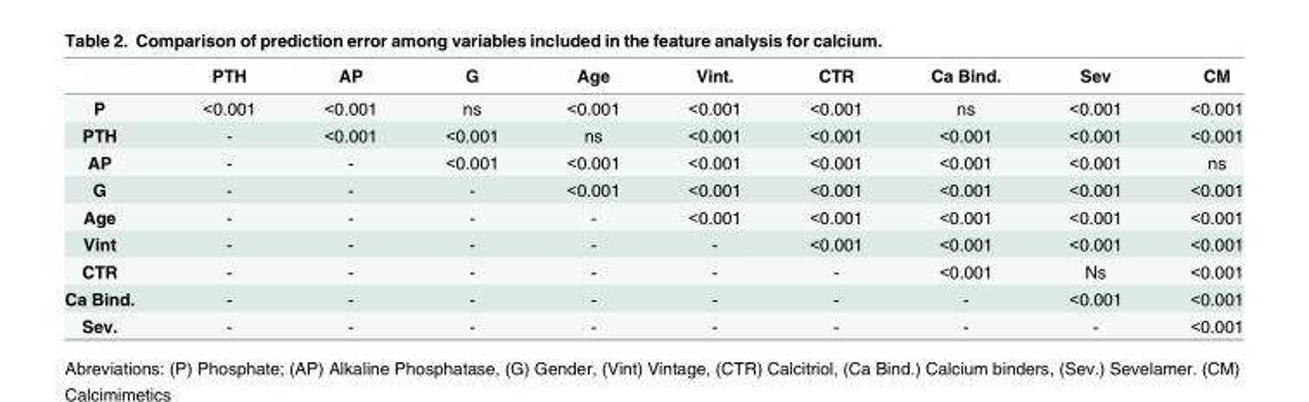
<table><thead><tr><td></td><td>PTH</td><td>AP</td><td>G</td><td>Age</td><td>Vint.</td><td>CTR</td><td>Ca Bind.</td><td>Sev</td><td>CM</td></tr></thead><tbody><tr><td>P</td><td>&lt;0.001</td><td>&lt;0.001</td><td>ns</td><td>&lt;0.001</td><td>&lt;0.001</td><td>&lt;0.001</td><td>ns</td><td>&lt;0.001</td><td>&lt;0.001</td></tr><tr><td>PTH</td><td>-</td><td>&lt;0.001</td><td>&lt;0.001</td><td>ns</td><td>&lt;0.001</td><td>&lt;0.001</td><td>&lt;0.001</td><td>&lt;0.001</td><td>&lt;0.001</td></tr><tr><td>AP</td><td>-</td><td>-</td><td>&lt;0.001</td><td>&lt;0.001</td><td>&lt;0.001</td><td>&lt;0.001</td><td>&lt;0.001</td><td>&lt;0.001</td><td>ns</td></tr><tr><td>G</td><td>-</td><td>-</td><td>-</td><td>&lt;0.001</td><td>&lt;0.001</td><td>&lt;0.001</td><td>&lt;0.001</td><td>&lt;0.001</td><td>&lt;0.001</td></tr><tr><td>Age</td><td>-</td><td>-</td><td>-</td><td>-</td><td>&lt;0.001</td><td>&lt;0.001</td><td>&lt;0.001</td><td>&lt;0.001</td><td>&lt;0.001</td></tr><tr><td>Vint</td><td>-</td><td>-</td><td>-</td><td>-</td><td>-</td><td>&lt;0.001</td><td>&lt;0.001</td><td>&lt;0.001</td><td>&lt;0.001</td></tr><tr><td>CTR</td><td>-</td><td>-</td><td>-</td><td>-</td><td>-</td><td>-</td><td>&lt;0.001</td><td>Ns</td><td>&lt;0.001</td></tr><tr><td>Ca Bind.</td><td>-</td><td>-</td><td>-</td><td>-</td><td>-</td><td>-</td><td>-</td><td>&lt;0.001</td><td>&lt;0.001</td></tr><tr><td>Sev.</td><td>-</td><td>-</td><td>-</td><td>-</td><td>-</td><td>-</td><td>-</td><td>-</td><td>&lt;0.001</td></tr></tbody></table>